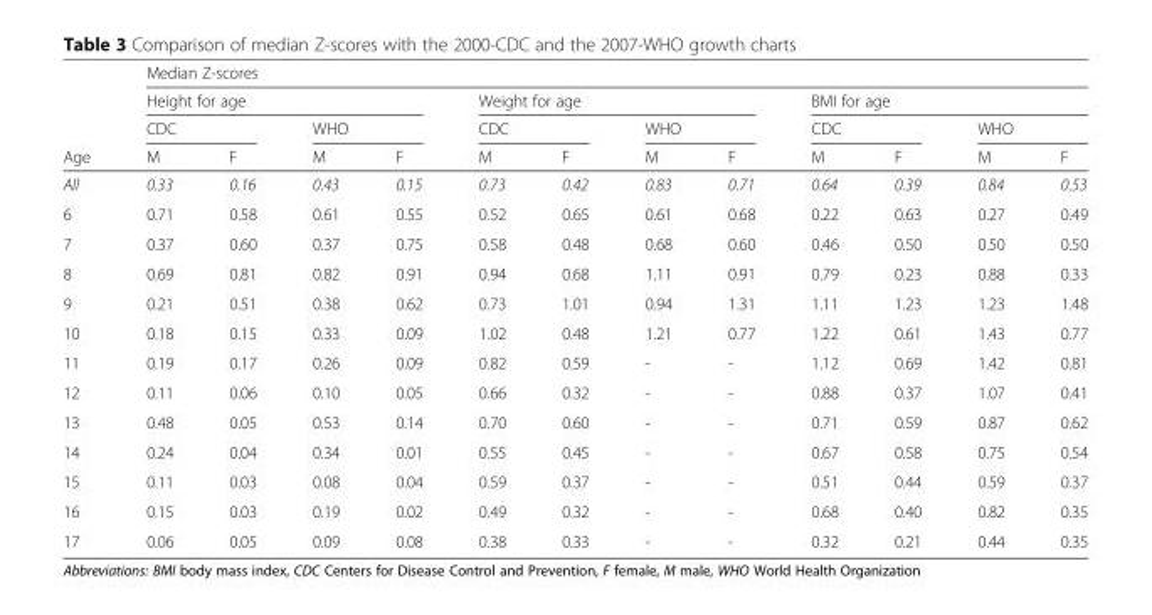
<table><thead><tr><td rowspan="4">Age</td><td colspan="12">Median Z-scores</td></tr><tr><td colspan="4">Height for age</td><td colspan="4">Weight for age</td><td colspan="4">BMI for age</td></tr><tr><td colspan="2">CDC</td><td colspan="2">WHO</td><td colspan="2">CDC</td><td colspan="2">WHO</td><td colspan="2">CDC</td><td colspan="2">WHO</td></tr><tr><td>M</td><td>F</td><td>M</td><td>F</td><td>M</td><td>F</td><td>M</td><td>F</td><td>M</td><td>F</td><td>M</td><td>F</td></tr></thead><tbody><tr><td>All</td><td>0.33</td><td>0.16</td><td>0.43</td><td>0.15</td><td>0.73</td><td>0.42</td><td>0.83</td><td>0.71</td><td>0.64</td><td>0.39</td><td>0.84</td><td>0.53</td></tr><tr><td>6</td><td>0.71</td><td>0.58</td><td>0.61</td><td>0.55</td><td>0.52</td><td>0.65</td><td>0.61</td><td>0.68</td><td>0.22</td><td>0.63</td><td>0.27</td><td>0.49</td></tr><tr><td>7</td><td>0.37</td><td>0.60</td><td>0.37</td><td>0.75</td><td>0.58</td><td>0.48</td><td>0.68</td><td>0.60</td><td>0.46</td><td>0.50</td><td>0.50</td><td>0.50</td></tr><tr><td>8</td><td>0.69</td><td>0.81</td><td>0.82</td><td>0.91</td><td>0.94</td><td>0.68</td><td>1.11</td><td>0.91</td><td>0.79</td><td>0.23</td><td>0.88</td><td>0.33</td></tr><tr><td>9</td><td>0.21</td><td>0.51</td><td>0.38</td><td>0.62</td><td>0.73</td><td>1.01</td><td>0.94</td><td>1.31</td><td>1.11</td><td>1.23</td><td>1.23</td><td>1.48</td></tr><tr><td>10</td><td>0.18</td><td>0.15</td><td>0.33</td><td>0.09</td><td>1.02</td><td>0.48</td><td>1.21</td><td>0.77</td><td>1.22</td><td>0.61</td><td>1.43</td><td>0.77</td></tr><tr><td>11</td><td>0.19</td><td>0.17</td><td>0.26</td><td>0.09</td><td>0.82</td><td>0.59</td><td>-</td><td>-</td><td>1.12</td><td>0.69</td><td>1.42</td><td>0.81</td></tr><tr><td>12</td><td>0.11</td><td>0.06</td><td>0.10</td><td>0.05</td><td>0.66</td><td>0.32</td><td>-</td><td>-</td><td>0.88</td><td>0.37</td><td>1.07</td><td>0.41</td></tr><tr><td>13</td><td>0.48</td><td>0.05</td><td>0.53</td><td>0.14</td><td>0.70</td><td>0.60</td><td>-</td><td>-</td><td>0.71</td><td>0.59</td><td>0.87</td><td>0.62</td></tr><tr><td>14</td><td>0.24</td><td>0.04</td><td>0.34</td><td>0.01</td><td>0.55</td><td>0.45</td><td>-</td><td>-</td><td>0.67</td><td>0.58</td><td>0.75</td><td>0.54</td></tr><tr><td>15</td><td>0.11</td><td>0.03</td><td>0.08</td><td>0.04</td><td>0.59</td><td>0.37</td><td>-</td><td>-</td><td>0.51</td><td>0.44</td><td>0.59</td><td>0.37</td></tr><tr><td>16</td><td>0.15</td><td>0.03</td><td>0.19</td><td>0.02</td><td>0.49</td><td>0.32</td><td>-</td><td>-</td><td>0.68</td><td>0.40</td><td>0.82</td><td>0.35</td></tr><tr><td>17</td><td>0.06</td><td>0.05</td><td>0.09</td><td>0.08</td><td>0.38</td><td>0.33</td><td>-</td><td>-</td><td>0.32</td><td>0.21</td><td>0.44</td><td>0.35</td></tr></tbody></table>